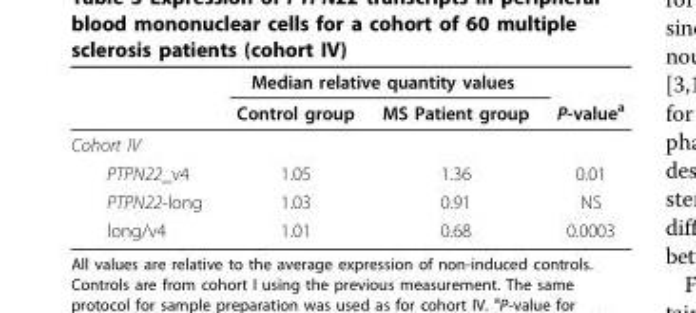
<table><thead><tr><td rowspan="2"></td><td colspan="2">Median relative quantity values</td><td rowspan="2">P-value<sup>a</sup></td></tr><tr><td>Control group</td><td>MS Patient group</td></tr></thead><tbody><tr><td colspan="4">Cohort IV</td></tr><tr><td>PTPN22_v4</td><td>1.05</td><td>1.36</td><td>0.01</td></tr><tr><td>PTPN22-long</td><td>1.03</td><td>0.91</td><td>NS</td></tr><tr><td>long/v4</td><td>1.01</td><td>0.68</td><td>0.0003</td></tr></tbody></table>